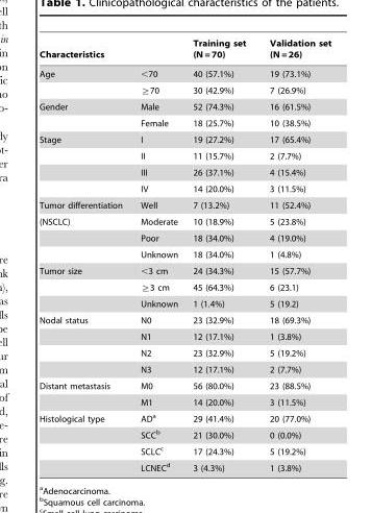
<table><thead><tr><td>Characteristics</td><td></td><td>Training set (N = 70)</td><td>Validation set (N = 26)</td></tr></thead><tbody><tr><td rowspan="2">Age</td><td>&lt;70</td><td>40 (57.1%)</td><td>19 (73.1%)</td></tr><tr><td>≧70</td><td>30 (42.9%)</td><td>7 (26.9%)</td></tr><tr><td rowspan="2">Gender</td><td>Male</td><td>52 (74.3%)</td><td>16 (61.5%)</td></tr><tr><td>Female</td><td>18 (25.7%)</td><td>10 (38.5%)</td></tr><tr><td rowspan="4">Stage</td><td>I</td><td>19 (27.2%)</td><td>17 (65.4%)</td></tr><tr><td>II</td><td>11 (15.7%)</td><td>2 (7.7%)</td></tr><tr><td>III</td><td>26 (37.1%)</td><td>4 (15.4%)</td></tr><tr><td>IV</td><td>14 (20.0%)</td><td>3 (11.5%)</td></tr><tr><td>Tumor differentiation</td><td>Well</td><td>7 (13.2%)</td><td>11 (52.4%)</td></tr><tr><td rowspan="3">(NSCLC)</td><td>Moderate</td><td>10 (18.9%)</td><td>5 (23.8%)</td></tr><tr><td>Poor</td><td>18 (34.0%)</td><td>4 (19.0%)</td></tr><tr><td>Unknown</td><td>18 (34.0%)</td><td>1 (4.8%)</td></tr><tr><td rowspan="3">Tumor size</td><td>&lt;3 cm</td><td>24 (34.3%)</td><td>15 (57.7%)</td></tr><tr><td>≧3 cm</td><td>45 (64.3%)</td><td>6 (23.1)</td></tr><tr><td>Unknown</td><td>1 (1.4%)</td><td>5 (19.2)</td></tr><tr><td rowspan="4">Nodal status</td><td>N0</td><td>23 (32.9%)</td><td>18 (69.3%)</td></tr><tr><td>N1</td><td>12 (17.1%)</td><td>1 (3.8%)</td></tr><tr><td>N2</td><td>23 (32.9%)</td><td>5 (19.2%)</td></tr><tr><td>N3</td><td>12 (17.1%)</td><td>2 (7.7%)</td></tr><tr><td rowspan="2">Distant metastasis</td><td>M0</td><td>56 (80.0%)</td><td>23 (88.5%)</td></tr><tr><td>M1</td><td>14 (20.0%)</td><td>3 (11.5%)</td></tr><tr><td rowspan="4">Histological type</td><td>AD<sup>a</sup></td><td>29 (41.4%)</td><td>20 (77.0%)</td></tr><tr><td>SCC<sup>b</sup></td><td>21 (30.0%)</td><td>0 (0.0%)</td></tr><tr><td>SCLC<sup>c</sup></td><td>17 (24.3%)</td><td>5 (19.2%)</td></tr><tr><td>LCNEC<sup>d</sup></td><td>3 (4.3%)</td><td>1 (3.8%)</td></tr></tbody></table>